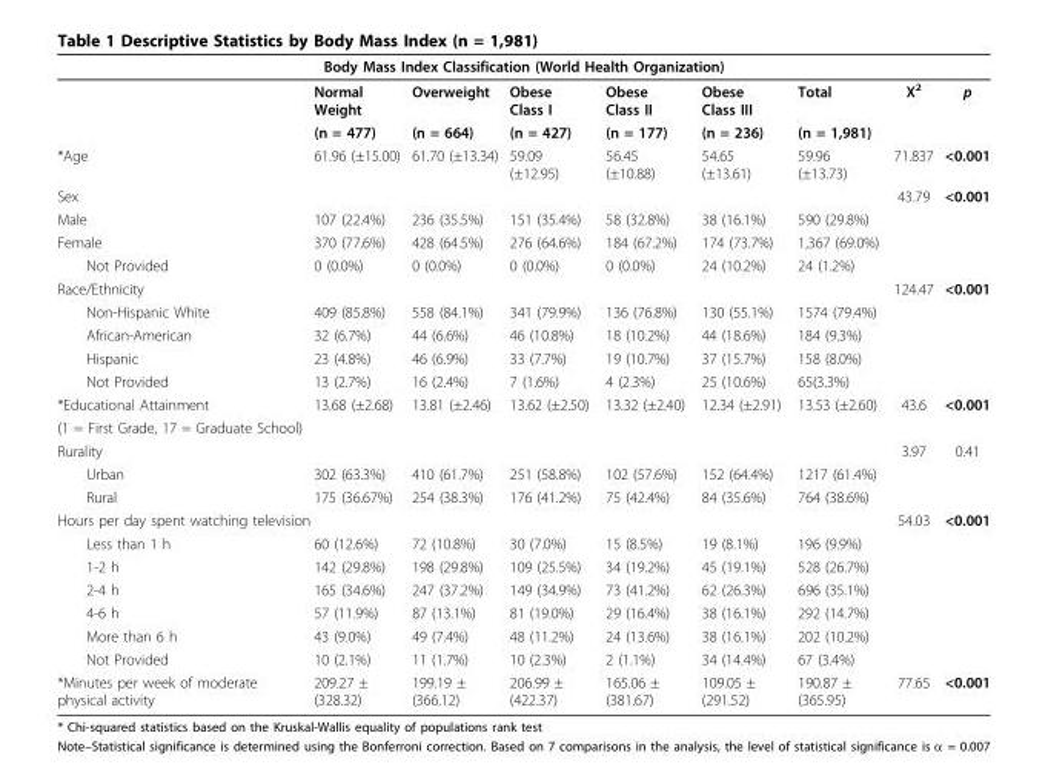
<table><thead><tr><td colspan="9">Body Mass Index Classification (World Health Organization)</td></tr><tr><td></td><td>Normal Weight</td><td>Overweight</td><td>Obese Class I</td><td>Obese Class II</td><td>Obese Class III</td><td>Total</td><td>X<sup>2</sup></td><td>p</td></tr></thead><tbody><tr><td></td><td>(n = 477)</td><td>(n = 664)</td><td>(n = 427)</td><td>(n = 177)</td><td>(n = 236)</td><td>(n = 1,981)</td><td></td><td></td></tr><tr><td>*Age</td><td>61.96 (±15.00)</td><td>61.70 (±13.34)</td><td>59.09 (±12.95)</td><td>56.45 (±10.88)</td><td>54.65 (±13.61)</td><td>59.96 (±13.73)</td><td>71.837</td><td>&lt;0.001</td></tr><tr><td colspan="7">Sex</td><td>43.79</td><td>&lt;0.001</td></tr><tr><td>Male</td><td>107 (22.4%)</td><td>236 (35.5%)</td><td>151 (35.4%)</td><td>58 (32.8%)</td><td>38 (16.1%)</td><td>590 (29.8%)</td><td></td><td></td></tr><tr><td>Female</td><td>370 (77.6%)</td><td>428 (64.5%)</td><td>276 (64.6%)</td><td>184 (67.2%)</td><td>174 (73.7%)</td><td>1,367 (69.0%)</td><td></td><td></td></tr><tr><td>Not Provided</td><td>0 (0.0%)</td><td>0 (0.0%)</td><td>0 (0.0%)</td><td>0 (0.0%)</td><td>24 (10.2%)</td><td>24 (1.2%)</td><td></td><td></td></tr><tr><td colspan="7">Race/Ethnicity</td><td>124.47</td><td>&lt;0.001</td></tr><tr><td>Non-Hispanic White</td><td>409 (85.8%)</td><td>558 (84.1%)</td><td>341 (79.9%)</td><td>136 (76.8%)</td><td>130 (55.1%)</td><td>1574 (79.4%)</td><td></td><td></td></tr><tr><td>African-American</td><td>32 (6.7%)</td><td>44 (6.6%)</td><td>46 (10.8%)</td><td>18 (10.2%)</td><td>44 (18.6%)</td><td>184 (9.3%)</td><td></td><td></td></tr><tr><td>Hispanic</td><td>23 (4.8%)</td><td>46 (6.9%)</td><td>33 (7.7%)</td><td>19 (10.7%)</td><td>37 (15.7%)</td><td>158 (8.0%)</td><td></td><td></td></tr><tr><td>Not Provided</td><td>13 (2.7%)</td><td>16 (2.4%)</td><td>7 (1.6%)</td><td>4 (2.3%)</td><td>25 (10.6%)</td><td>65(3.3%)</td><td></td><td></td></tr><tr><td>*Educational Attainment</td><td>13.68 (±2.68)</td><td>13.81 (±2.46)</td><td>13.62 (±2.50)</td><td>13.32 (±2.40)</td><td>12.34 (±2.91)</td><td>13.53 (±2.60)</td><td>43.6</td><td>&lt;0.001</td></tr><tr><td colspan="9">(1 = First Grade, 17 = Graduate School)</td></tr><tr><td colspan="7">Rurality</td><td>3.97</td><td>0.41</td></tr><tr><td>Urban</td><td>302 (63.3%)</td><td>410 (61.7%)</td><td>251 (58.8%)</td><td>102 (57.6%)</td><td>152 (64.4%)</td><td>1217 (61.4%)</td><td></td><td></td></tr><tr><td>Rural</td><td>175 (36.67%)</td><td>254 (38.3%)</td><td>176 (41.2%)</td><td>75 (42.4%)</td><td>84 (35.6%)</td><td>764 (38.6%)</td><td></td><td></td></tr><tr><td colspan="7">Hours per day spent watching television</td><td>54.03</td><td>&lt;0.001</td></tr><tr><td>Less than 1 h</td><td>60 (12.6%)</td><td>72 (10.8%)</td><td>30 (7.0%)</td><td>15 (8.5%)</td><td>19 (8.1%)</td><td>196 (9.9%)</td><td></td><td></td></tr><tr><td>1-2 h</td><td>142 (29.8%)</td><td>198 (29.8%)</td><td>109 (25.5%)</td><td>34 (19.2%)</td><td>45 (19.1%)</td><td>528 (26.7%)</td><td></td><td></td></tr><tr><td>2-4 h</td><td>165 (34.6%)</td><td>247 (37.2%)</td><td>149 (34.9%)</td><td>73 (41.2%)</td><td>62 (26.3%)</td><td>696 (35.1%)</td><td></td><td></td></tr><tr><td>4-6 h</td><td>57 (11.9%)</td><td>87 (13.1%)</td><td>81 (19.0%)</td><td>29 (16.4%)</td><td>38 (16.1%)</td><td>292 (14.7%)</td><td></td><td></td></tr><tr><td>More than 6 h</td><td>43 (9.0%)</td><td>49 (7.4%)</td><td>48 (11.2%)</td><td>24 (13.6%)</td><td>38 (16.1%)</td><td>202 (10.2%)</td><td></td><td></td></tr><tr><td>Not Provided</td><td>10 (2.1%)</td><td>11 (1.7%)</td><td>10 (2.3%)</td><td>2 (1.1%)</td><td>34 (14.4%)</td><td>67 (3.4%)</td><td></td><td></td></tr><tr><td>*Minutes per week of moderate physical activity</td><td>209.27 ± (328.32)</td><td>199.19 ± (366.12)</td><td>206.99 ± (422.37)</td><td>165.06 ± (381.67)</td><td>109.05 ± (291.52)</td><td>190.87 ± (365.95)</td><td>77.65</td><td>&lt;0.001</td></tr></tbody></table>